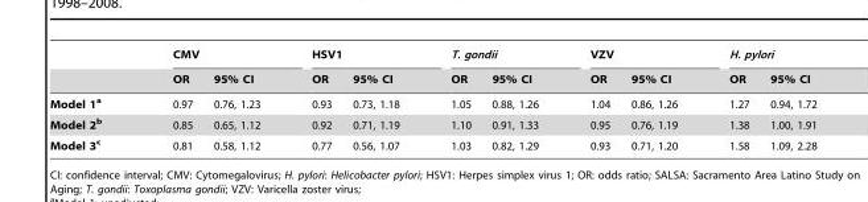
<table><thead><tr><td rowspan="2"></td><td colspan="2">CMV</td><td colspan="2">HSV1</td><td colspan="2">T. gondii</td><td colspan="2">VZV</td><td colspan="2">H. pylori</td></tr><tr><td>OR</td><td>95% CI</td><td>OR</td><td>95% CI</td><td>OR</td><td>95% CI</td><td>OR</td><td>95% CI</td><td>OR</td><td>95% CI</td></tr></thead><tbody><tr><td>Model 1a</td><td>0.97</td><td>0.76, 1.23</td><td>0.93</td><td>0.73, 1.18</td><td>1.05</td><td>0.88, 1.26</td><td>1.04</td><td>0.86, 1.26</td><td>1.27</td><td>0.94, 1.72</td></tr><tr><td>Model 2b</td><td>0.85</td><td>0.65, 1.12</td><td>0.92</td><td>0.71, 1.19</td><td>1.10</td><td>0.91, 1.33</td><td>0.95</td><td>0.76, 1.19</td><td>1.38</td><td>1.00, 1.91</td></tr><tr><td>Model 3c</td><td>0.81</td><td>0.58, 1.12</td><td>0.77</td><td>0.56, 1.07</td><td>1.03</td><td>0.82, 1.29</td><td>0.93</td><td>0.71, 1.20</td><td>1.58</td><td>1.09, 2.28</td></tr></tbody></table>